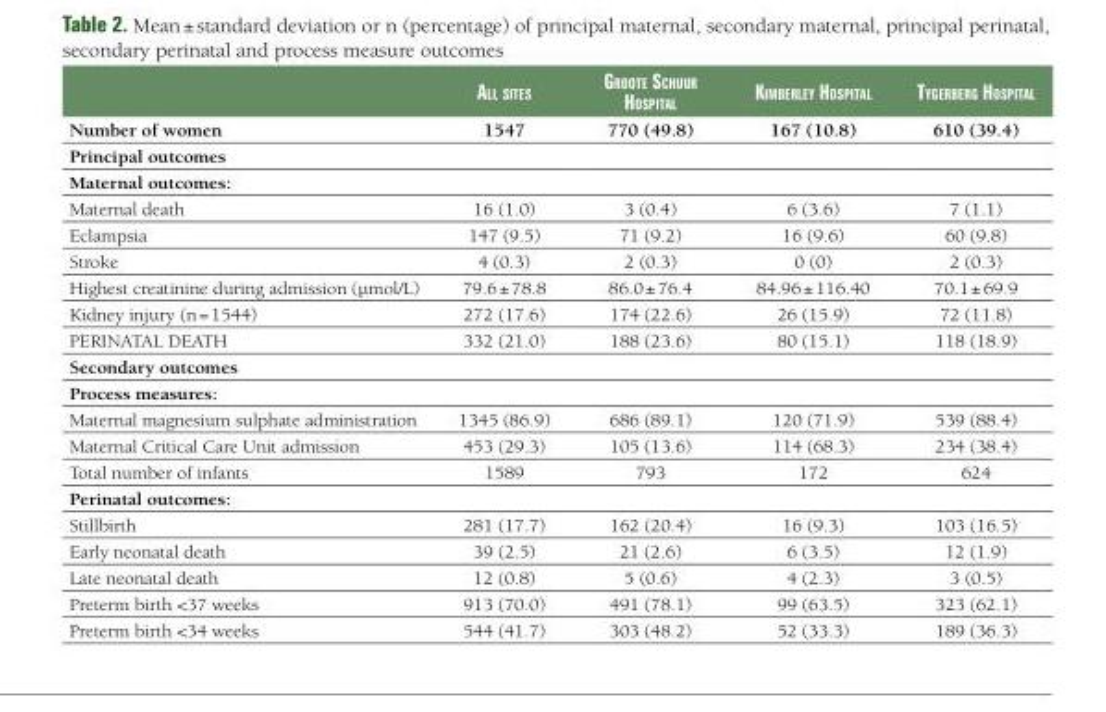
<table><thead><tr><td></td><td>All sites</td><td>Groote schuur hospitAl</td><td>Kimberley hospitAl</td><td>tyGerberG hospitAl</td></tr></thead><tbody><tr><td>Number of women</td><td>1547</td><td>770 (49.8)</td><td>167 (10.8)</td><td>610 (39.4)</td></tr><tr><td colspan="5">Principal outcomes</td></tr><tr><td colspan="5">Maternal outcomes:</td></tr><tr><td>Maternal death</td><td>16 (1.0)</td><td>3 (0.4)</td><td>6 (3.6)</td><td>7 (1.1)</td></tr><tr><td>Eclampsia</td><td>147 (9.5)</td><td>71 (9.2)</td><td>16 (9.6)</td><td>60 (9.8)</td></tr><tr><td>Stroke</td><td>4 (0.3)</td><td>2 (0.3)</td><td>0 (0)</td><td>2 (0.3)</td></tr><tr><td>Highest creatinine during admission (μmol/L)</td><td>79.6 ± 78.8</td><td>86.0 ± 76.4</td><td>84.96 ± 116.40</td><td>70.1 ± 69.9</td></tr><tr><td>Kidney injury (n = 1544)</td><td>272 (17.6)</td><td>174 (22.6)</td><td>26 (15.9)</td><td>72 (11.8)</td></tr><tr><td>PERINATAL DEATH</td><td>332 (21.0)</td><td>188 (23.6)</td><td>80 (15.1)</td><td>118 (18.9)</td></tr><tr><td colspan="5">Secondary outcomes</td></tr><tr><td colspan="5">Process measures:</td></tr><tr><td>Maternal magnesium sulphate administration</td><td>1345 (86.9)</td><td>686 (89.1)</td><td>120 (71.9)</td><td>539 (88.4)</td></tr><tr><td>Maternal Critical Care Unit admission</td><td>453 (29.3)</td><td>105 (13.6)</td><td>114 (68.3)</td><td>234 (38.4)</td></tr><tr><td>Total number of infants</td><td>1589</td><td>793</td><td>172</td><td>624</td></tr><tr><td colspan="5">Perinatal outcomes:</td></tr><tr><td>Stillbirth</td><td>281 (17.7)</td><td>162 (20.4)</td><td>16 (9.3)</td><td>103 (16.5)</td></tr><tr><td>Early neonatal death</td><td>39 (2.5)</td><td>21 (2.6)</td><td>6 (3.5)</td><td>12 (1.9)</td></tr><tr><td>Late neonatal death</td><td>12 (0.8)</td><td>5 (0.6)</td><td>4 (2.3)</td><td>3 (0.5)</td></tr><tr><td>Preterm birth &lt;37 weeks</td><td>913 (70.0)</td><td>491 (78.1)</td><td>99 (63.5)</td><td>323 (62.1)</td></tr><tr><td>Preterm birth &lt;34 weeks</td><td>544 (41.7)</td><td>303 (48.2)</td><td>52 (33.3)</td><td>189 (36.3)</td></tr></tbody></table>